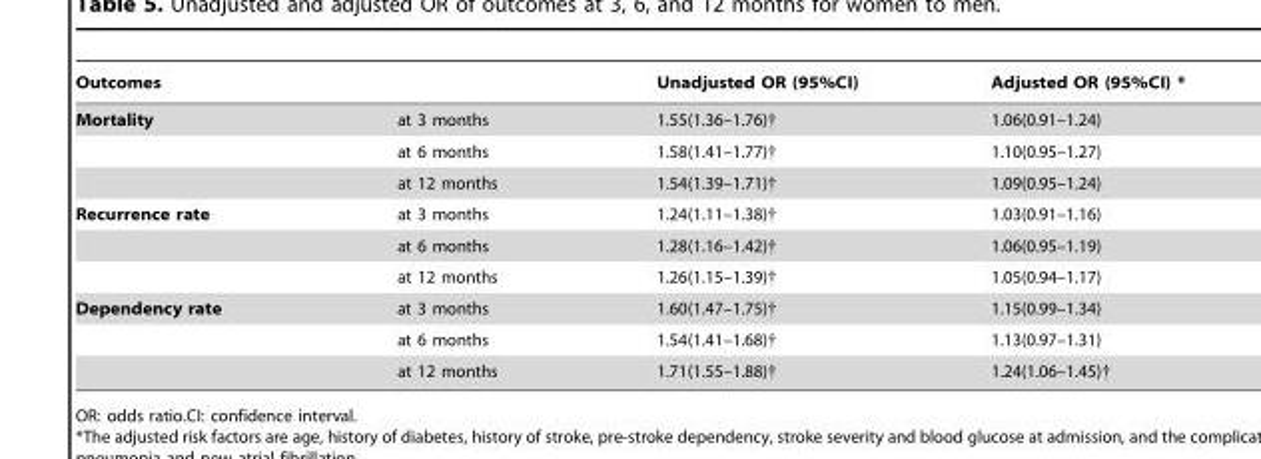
<table><thead><tr><td>Outcomes</td><td></td><td>Unadjusted OR (95%CI)</td><td>Adjusted OR (95%CI) *</td></tr></thead><tbody><tr><td rowspan="3">Mortality</td><td>at 3 months</td><td>1.55(1.36–1.76)†</td><td>1.06(0.91–1.24)</td></tr><tr><td>at 6 months</td><td>1.58(1.41–1.77)†</td><td>1.10(0.95–1.27)</td></tr><tr><td>at 12 months</td><td>1.54(1.39–1.71)†</td><td>1.09(0.95–1.24)</td></tr><tr><td rowspan="3">Recurrence rate</td><td>at 3 months</td><td>1.24(1.11–1.38)†</td><td>1.03(0.91–1.16)</td></tr><tr><td>at 6 months</td><td>1.28(1.16–1.42)†</td><td>1.06(0.95–1.19)</td></tr><tr><td>at 12 months</td><td>1.26(1.15–1.39)†</td><td>1.05(0.94–1.17)</td></tr><tr><td rowspan="3">Dependency rate</td><td>at 3 months</td><td>1.60(1.47–1.75)†</td><td>1.15(0.99–1.34)</td></tr><tr><td>at 6 months</td><td>1.54(1.41–1.68)†</td><td>1.13(0.97–1.31)</td></tr><tr><td>at 12 months</td><td>1.71(1.55–1.88)†</td><td>1.24(1.06–1.45)†</td></tr></tbody></table>